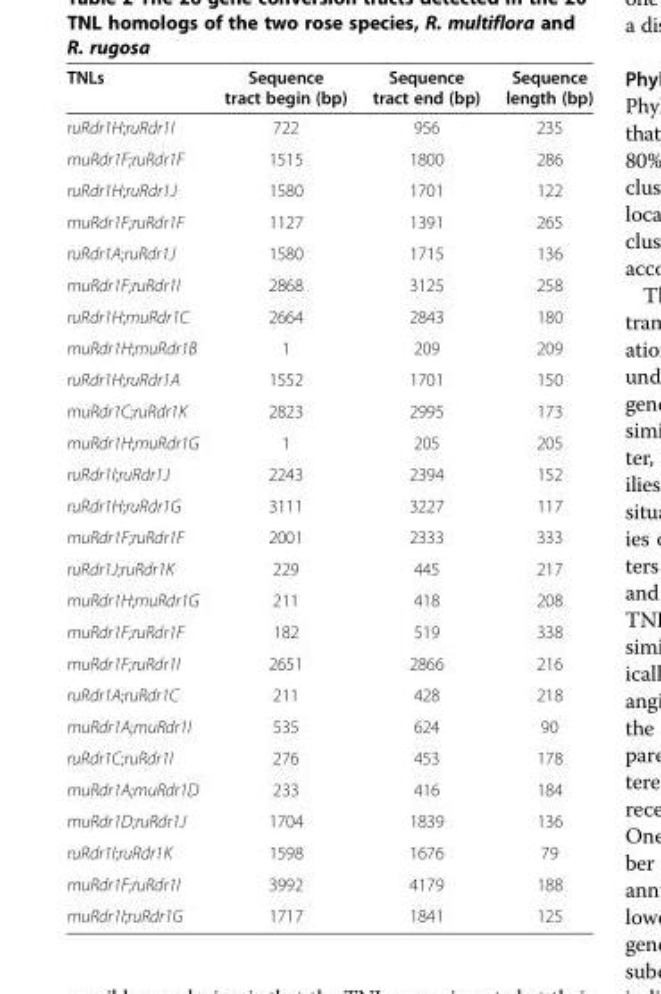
<table><thead><tr><td>TNLs</td><td>Sequence tract begin (bp)</td><td>Sequence tract end (bp)</td><td>Sequence length (bp)</td></tr></thead><tbody><tr><td>ruRdr1H;ruRdr1I</td><td>722</td><td>956</td><td>235</td></tr><tr><td>muRdr1F;ruRdr1F</td><td>1515</td><td>1800</td><td>286</td></tr><tr><td>ruRdr1H;ruRdr1J</td><td>1580</td><td>1701</td><td>122</td></tr><tr><td>muRdr1F;ruRdr1F</td><td>1127</td><td>1391</td><td>265</td></tr><tr><td>ruRdr1A;ruRdr1J</td><td>1580</td><td>1715</td><td>136</td></tr><tr><td>muRdr1F;ruRdr1I</td><td>2868</td><td>3125</td><td>258</td></tr><tr><td>ruRdr1H;muRdr1C</td><td>2664</td><td>2843</td><td>180</td></tr><tr><td>muRdr1H;muRdr1B</td><td>1</td><td>209</td><td>209</td></tr><tr><td>ruRdr1H;ruRdr1A</td><td>1552</td><td>1701</td><td>150</td></tr><tr><td>muRdr1C;ruRdr1K</td><td>2823</td><td>2995</td><td>173</td></tr><tr><td>muRdr1H;muRdr1G</td><td>1</td><td>205</td><td>205</td></tr><tr><td>ruRdr1I;ruRdr1J</td><td>2243</td><td>2394</td><td>152</td></tr><tr><td>ruRdr1H;ruRdr1G</td><td>3111</td><td>3227</td><td>117</td></tr><tr><td>muRdr1F;ruRdr1F</td><td>2001</td><td>2333</td><td>333</td></tr><tr><td>ruRdr1J;ruRdr1K</td><td>229</td><td>445</td><td>217</td></tr><tr><td>muRdr1H;muRdr1G</td><td>211</td><td>418</td><td>208</td></tr><tr><td>muRdr1F;ruRdr1F</td><td>182</td><td>519</td><td>338</td></tr><tr><td>muRdr1F;ruRdr1I</td><td>2651</td><td>2866</td><td>216</td></tr><tr><td>ruRdr1A;ruRdr1C</td><td>211</td><td>428</td><td>218</td></tr><tr><td>muRdr1A;muRdr1I</td><td>535</td><td>624</td><td>90</td></tr><tr><td>ruRdr1C;ruRdr1I</td><td>276</td><td>453</td><td>178</td></tr><tr><td>muRdr1A;muRdr1D</td><td>233</td><td>416</td><td>184</td></tr><tr><td>muRdr1D;ruRdr1J</td><td>1704</td><td>1839</td><td>136</td></tr><tr><td>ruRdr1I;ruRdr1K</td><td>1598</td><td>1676</td><td>79</td></tr><tr><td>muRdr1F;ruRdr1I</td><td>3992</td><td>4179</td><td>188</td></tr><tr><td>muRdr1I;ruRdr1G</td><td>1717</td><td>1841</td><td>125</td></tr></tbody></table>